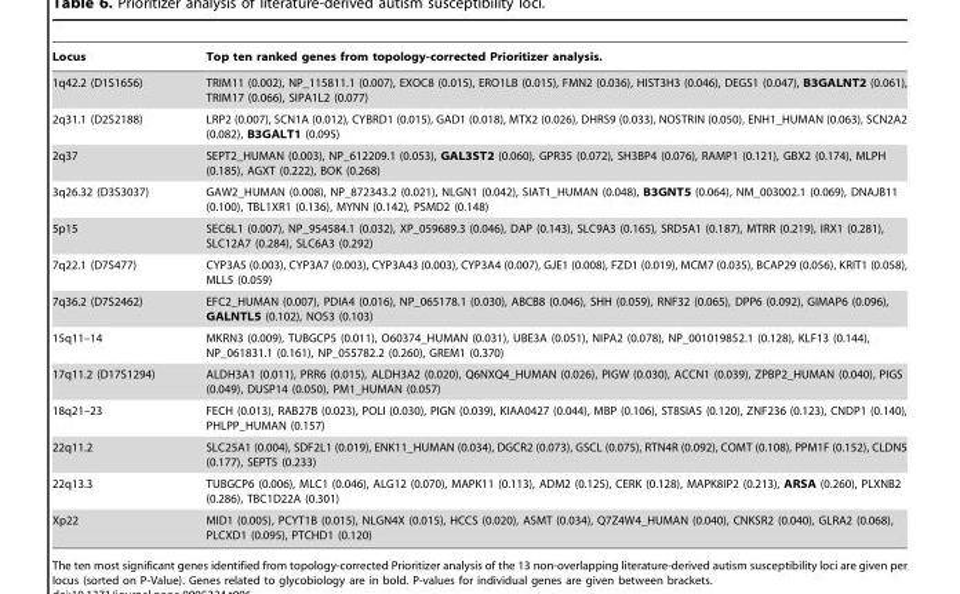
<table><thead><tr><td>Locus</td><td>Top ten ranked genes from topology-corrected Prioritizer analysis.</td></tr></thead><tbody><tr><td>1q42.2 (D1S1656)</td><td>TRIM11 (0.002), NP_115811.1 (0.007), EXOC8 (0.015), ERO1LB (0.015), FMN2 (0.036), HIST3H3 (0.046), DEGS1 (0.047), B3GALNT2 (0.061), TRIM17 (0.066), SIPA1L2 (0.077)</td></tr><tr><td>2q31.1 (D2S2188)</td><td>LRP2 (0.007), SCN1A (0.012), CYBRD1 (0.015), GAD1 (0.018), MTX2 (0.026), DHRS9 (0.033), NOSTRIN (0.050), ENH1_HUMAN (0.063), SCN2A2 (0.082), B3GALT1 (0.095)</td></tr><tr><td>2q37</td><td>SEPT2_HUMAN (0.003), NP_612209.1 (0.053), GAL3ST2 (0.060), GPR35 (0.072), SH3BP4 (0.076), RAMP1 (0.121), GBX2 (0.174), MLPH (0.185), AGXT (0.222), BOK (0.268)</td></tr><tr><td>3q26.32 (D3S3037)</td><td>GAW2_HUMAN (0.008), NP_872343.2 (0.021), NLGN1 (0.042), SIAT1_HUMAN (0.048), B3GNT5 (0.064), NM_003002.1 (0.069), DNAJB11 (0.100), TBL1XR1 (0.136), MYNN (0.142), PSMD2 (0.148)</td></tr><tr><td>5p15</td><td>SEC6L1 (0.007), NP_954584.1 (0.032), XP_059689.3 (0.046), DAP (0.143), SLC9A3 (0.165), SRD5A1 (0.187), MTRR (0.219), IRX1 (0.281), SLC12A7 (0.284), SLC6A3 (0.292)</td></tr><tr><td>7q22.1 (D7S477)</td><td>CYP3A5 (0.003), CYP3A7 (0.003), CYP3A43 (0.003), CYP3A4 (0.007), GJE1 (0.008), FZD1 (0.019), MCM7 (0.035), BCAP29 (0.056), KRIT1 (0.058), MLL5 (0.059)</td></tr><tr><td>7q36.2 (D7S2462)</td><td>EFC2_HUMAN (0.007), PDIA4 (0.016), NP_065178.1 (0.030), ABCB8 (0.046), SHH (0.059), RNF32 (0.065), DPP6 (0.092), GIMAP6 (0.096), GALNTL5 (0.102), NOS3 (0.103)</td></tr><tr><td>15q11–14</td><td>MKRN3 (0.009), TUBGCP5 (0.011), O60374_HUMAN (0.031), UBE3A (0.051), NIPA2 (0.078), NP_001019852.1 (0.128), KLF13 (0.144), NP_061831.1 (0.161), NP_055782.2 (0.260), GREM1 (0.370)</td></tr><tr><td>17q11.2 (D17S1294)</td><td>ALDH3A1 (0.011), PRR6 (0.015), ALDH3A2 (0.020), Q6NXQ4_HUMAN (0.026), PIGW (0.030), ACCN1 (0.039), ZPBP2_HUMAN (0.040), PIGS (0.049), DUSP14 (0.050), PM1_HUMAN (0.057)</td></tr><tr><td>18q21–23</td><td>FECH (0.013), RAB27B (0.023), POLI (0.030), PIGN (0.039), KIAA0427 (0.044), MBP (0.106), ST8SIA5 (0.120), ZNF236 (0.123), CNDP1 (0.140), PHLPP_HUMAN (0.157)</td></tr><tr><td>22q11.2</td><td>SLC25A1 (0.004), SDF2L1 (0.019), ENK11_HUMAN (0.034), DGCR2 (0.073), GSCL (0.075), RTN4R (0.092), COMT (0.108), PPM1F (0.152), CLDN5 (0.177), SEPT5 (0.233)</td></tr><tr><td>22q13.3</td><td>TUBGCP6 (0.006), MLC1 (0.046), ALG12 (0.070), MAPK11 (0.113), ADM2 (0.125), CERK (0.128), MAPK8IP2 (0.213), ARSA (0.260), PLXNB2 (0.286), TBC1D22A (0.301)</td></tr><tr><td>Xp22</td><td>MID1 (0.005), PCYT1B (0.015), NLGN4X (0.015), HCCS (0.020), ASMT (0.034), Q7Z4W4_HUMAN (0.040), CNKSR2 (0.040), GLRA2 (0.068), PLCXD1 (0.095), PTCHD1 (0.120)</td></tr></tbody></table>